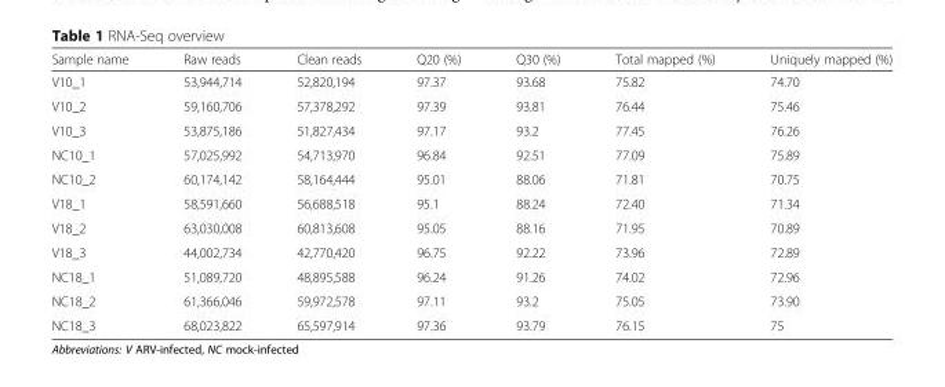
<table><thead><tr><td>Sample name</td><td>Raw reads</td><td>Clean reads</td><td>Q20 (%)</td><td>Q30 (%)</td><td>Total mapped (%)</td><td>Uniquely mapped (%)</td></tr></thead><tbody><tr><td>V10_1</td><td>53,944,714</td><td>52,820,194</td><td>97.37</td><td>93.68</td><td>75.82</td><td>74.70</td></tr><tr><td>V10_2</td><td>59,160,706</td><td>57,378,292</td><td>97.39</td><td>93.81</td><td>76.44</td><td>75.46</td></tr><tr><td>V10_3</td><td>53,875,186</td><td>51,827,434</td><td>97.17</td><td>93.2</td><td>77.45</td><td>76.26</td></tr><tr><td>NC10_1</td><td>57,025,992</td><td>54,713,970</td><td>96.84</td><td>92.51</td><td>77.09</td><td>75.89</td></tr><tr><td>NC10_2</td><td>60,174,142</td><td>58,164,444</td><td>95.01</td><td>88.06</td><td>71.81</td><td>70.75</td></tr><tr><td>V18_1</td><td>58,591,660</td><td>56,688,518</td><td>95.1</td><td>88.24</td><td>72.40</td><td>71.34</td></tr><tr><td>V18_2</td><td>63,030,008</td><td>60,813,608</td><td>95.05</td><td>88.16</td><td>71.95</td><td>70.89</td></tr><tr><td>V18_3</td><td>44,002,734</td><td>42,770,420</td><td>96.75</td><td>92.22</td><td>73.96</td><td>72.89</td></tr><tr><td>NC18_1</td><td>51,089,720</td><td>48,895,588</td><td>96.24</td><td>91.26</td><td>74.02</td><td>72.96</td></tr><tr><td>NC18_2</td><td>61,366,046</td><td>59,972,578</td><td>97.11</td><td>93.2</td><td>75.05</td><td>73.90</td></tr><tr><td>NC18_3</td><td>68,023,822</td><td>65,597,914</td><td>97.36</td><td>93.79</td><td>76.15</td><td>75</td></tr></tbody></table>